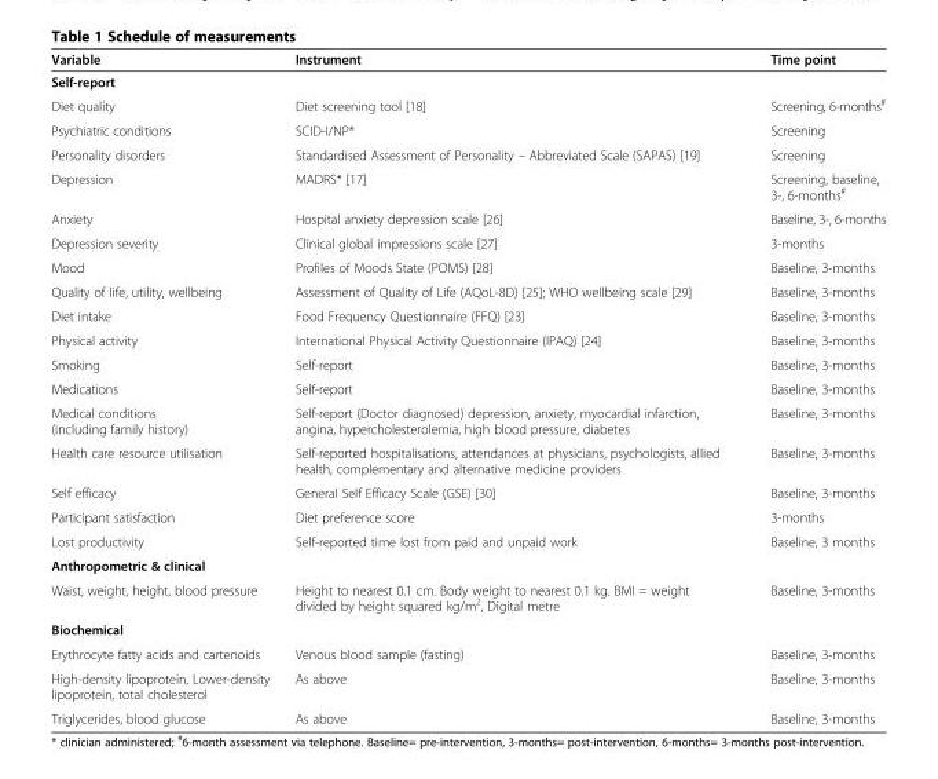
<table><thead><tr><td>Variable</td><td>Instrument</td><td>Time point</td></tr></thead><tbody><tr><td colspan="3">Self-report</td></tr><tr><td>Diet quality</td><td>Diet screening tool [18]</td><td>Screening, 6-months<sup>#</sup></td></tr><tr><td>Psychiatric conditions</td><td>SCID-I/NP*</td><td>Screening</td></tr><tr><td>Personality disorders</td><td>Standardised Assessment of Personality – Abbreviated Scale (SAPAS) [19]</td><td>Screening</td></tr><tr><td>Depression</td><td>MADRS* [17]</td><td>Screening, baseline, 3-, 6-months<sup>#</sup></td></tr><tr><td>Anxiety</td><td>Hospital anxiety depression scale [26]</td><td>Baseline, 3-, 6-months</td></tr><tr><td>Depression severity</td><td>Clinical global impressions scale [27]</td><td>3-months</td></tr><tr><td>Mood</td><td>Profiles of Moods State (POMS) [28]</td><td>Baseline, 3-months</td></tr><tr><td>Quality of life, utility, wellbeing</td><td>Assessment of Quality of Life (AQoL-8D) [25]; WHO wellbeing scale [29]</td><td>Baseline, 3-months</td></tr><tr><td>Diet intake</td><td>Food Frequency Questionnaire (FFQ) [23]</td><td>Baseline, 3-months</td></tr><tr><td>Physical activity</td><td>International Physical Activity Questionnaire (IPAQ) [24]</td><td>Baseline, 3-months</td></tr><tr><td>Smoking</td><td>Self-report</td><td>Baseline, 3-months</td></tr><tr><td>Medications</td><td>Self-report</td><td>Baseline, 3-months</td></tr><tr><td>Medical conditions (including family history)</td><td>Self-report (Doctor diagnosed) depression, anxiety, myocardial infarction, angina, hypercholesterolemia, high blood pressure, diabetes</td><td>Baseline, 3-months</td></tr><tr><td>Health care resource utilisation</td><td>Self-reported hospitalisations, attendances at physicians, psychologists, allied health, complementary and alternative medicine providers</td><td>Baseline, 3-months</td></tr><tr><td>Self efficacy</td><td>General Self Efficacy Scale (GSE) [30]</td><td>Baseline, 3-months</td></tr><tr><td>Participant satisfaction</td><td>Diet preference score</td><td>3-months</td></tr><tr><td>Lost productivity</td><td>Self-reported time lost from paid and unpaid work</td><td>Baseline, 3 months</td></tr><tr><td colspan="3">Anthropometric &amp; clinical</td></tr><tr><td>Waist, weight, height, blood pressure</td><td>Height to nearest 0.1 cm. Body weight to nearest 0.1 kg. BMI = weight divided by height squared kg/m<sup>2</sup>, Digital metre</td><td>Baseline, 3-months</td></tr><tr><td colspan="3">Biochemical</td></tr><tr><td>Erythrocyte fatty acids and cartenoids</td><td>Venous blood sample (fasting)</td><td>Baseline, 3-months</td></tr><tr><td>High-density lipoprotein, Lower-density lipoprotein, total cholesterol</td><td>As above</td><td>Baseline, 3-months</td></tr><tr><td>Triglycerides, blood glucose</td><td>As above</td><td>Baseline, 3-months</td></tr></tbody></table>